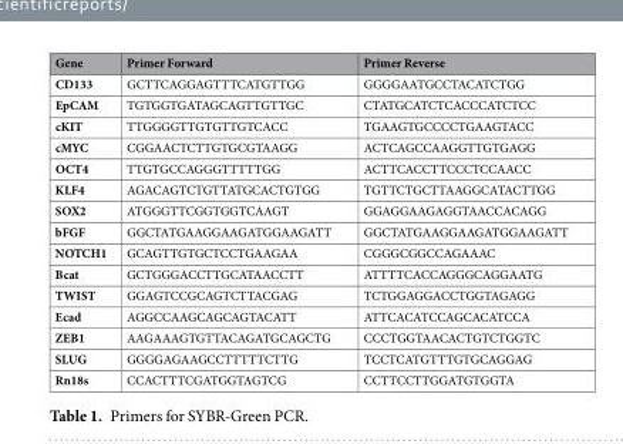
<table><thead><tr><td>Gene</td><td>Primer Forward</td><td>Primer Reverse</td></tr></thead><tbody><tr><td>CD133</td><td>GCTTCAGGAGTTTCATGTTGG</td><td>GGGGAATGCCTACATCTGG</td></tr><tr><td>EpCAM</td><td>TGTGGTGATAGCAGTTGTTGC</td><td>CTATGCATCTCACCCATCTCC</td></tr><tr><td>cKIT</td><td>TTGGGGTTGTGTTGTCACC</td><td>TGAAGTGCCCCTGAAGTACC</td></tr><tr><td>cMYC</td><td>CGGAACTCTTGTGCGTAAGG</td><td>ACTCAGCCAAGGTTGTGAGG</td></tr><tr><td>OCT4</td><td>TTGTGCCAGGGTTTTTGG</td><td>ACTTCACCTTCCCTCCAACC</td></tr><tr><td>KLF4</td><td>AGACAGTCTGTTATGCACTGTGG</td><td>TGTTCTGCTTAAGGCATACTTGG</td></tr><tr><td>SOX2</td><td>ATGGGTTCGGTGGTCAAGT</td><td>GGAGGAAGAGGTAACCACAGG</td></tr><tr><td>bFGF</td><td>GGCTATGAAGGAAGATGGAAGATT</td><td>GGCTATGAAGGAAGATGGAAGATT</td></tr><tr><td>NOTCH1</td><td>GCAGTTGTGCTCCTGAAGAA</td><td>CGGGCGGCCAGAAAC</td></tr><tr><td>Bcat</td><td>GCTGGGACCTTGCATAACCTT</td><td>ATTTTCACCAGGGCAGGAATG</td></tr><tr><td>TWIST</td><td>GGAGTCCGCAGTCTTACGAG</td><td>TCTGGAGGACCTGGTAGAGG</td></tr><tr><td>Ecad</td><td>AGGCCAAGCAGCAGTACATT</td><td>ATTCACATCCAGCACATCCA</td></tr><tr><td>ZEB1</td><td>AAGAAAGTGTTACAGATGCAGCTG</td><td>CCCTGGTAACACTGTCTGGTC</td></tr><tr><td>SLUG</td><td>GGGGAGAAGCCTTTTTCTTG</td><td>TCCTCATGTTTGTGCAGGAG</td></tr><tr><td>Rn18s</td><td>CCACTTTCGATGGTAGTCG</td><td>CCTTCCTTGGATGTGGTA</td></tr></tbody></table>